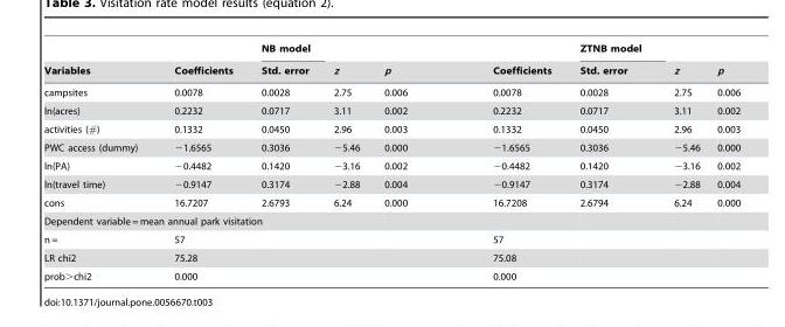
<table><thead><tr><td rowspan="2">Variables</td><td rowspan="2">Coefficients</td><td rowspan="2">NB model Std. error</td><td rowspan="2">z</td><td rowspan="2">p</td><td rowspan="2">Coefficients</td><td rowspan="2">ZTNB model Std. error</td><td rowspan="2">z</td><td rowspan="2">p</td></tr><tr></tr></thead><tbody><tr><td>campsites</td><td>0.0078</td><td>0.0028</td><td>2.75</td><td>0.006</td><td>0.0078</td><td>0.0028</td><td>2.75</td><td>0.006</td></tr><tr><td>ln(acres)</td><td>0.2232</td><td>0.0717</td><td>3.11</td><td>0.002</td><td>0.2232</td><td>0.0717</td><td>3.11</td><td>0.002</td></tr><tr><td>activities (#)</td><td>0.1332</td><td>0.0450</td><td>2.96</td><td>0.003</td><td>0.1332</td><td>0.0450</td><td>2.96</td><td>0.003</td></tr><tr><td>PWC access (dummy)</td><td>−1.6565</td><td>0.3036</td><td>−5.46</td><td>0.000</td><td>−1.6565</td><td>0.3036</td><td>−5.46</td><td>0.000</td></tr><tr><td>ln(PA)</td><td>−0.4482</td><td>0.1420</td><td>−3.16</td><td>0.002</td><td>−0.4482</td><td>0.1420</td><td>−3.16</td><td>0.002</td></tr><tr><td>ln(travel time)</td><td>−0.9147</td><td>0.3174</td><td>−2.88</td><td>0.004</td><td>−0.9147</td><td>0.3174</td><td>−2.88</td><td>0.004</td></tr><tr><td>cons</td><td>16.7207</td><td>2.6793</td><td>6.24</td><td>0.000</td><td>16.7208</td><td>2.6794</td><td>6.24</td><td>0.000</td></tr><tr><td colspan="9">Dependent variable = mean annual park visitation</td></tr><tr><td>n =</td><td>57</td><td></td><td></td><td></td><td>57</td><td></td><td></td><td></td></tr><tr><td>LR chi2</td><td>75.28</td><td></td><td></td><td></td><td>75.08</td><td></td><td></td><td></td></tr><tr><td>prob&gt;chi2</td><td>0.000</td><td></td><td></td><td></td><td>0.000</td><td></td><td></td><td></td></tr></tbody></table>